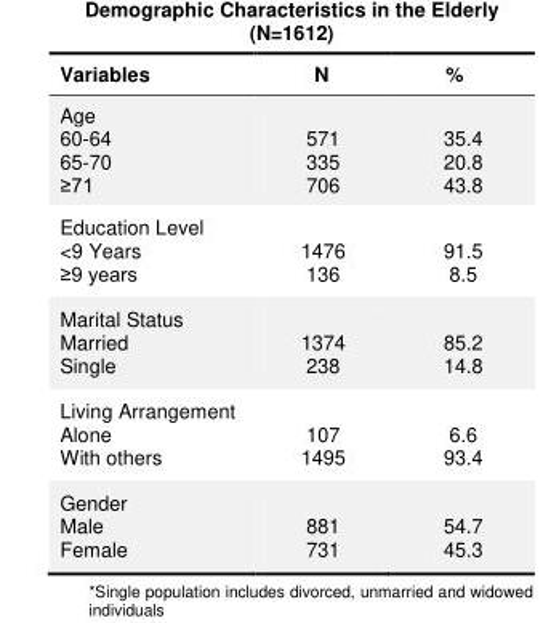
<table><thead><tr><td>Variables</td><td>N</td><td>%</td></tr></thead><tbody><tr><td>Age 60-64 65-70 ≥71</td><td>571 335 706</td><td>35.4 20.8 43.8</td></tr><tr><td>Education Level &lt;9 Years ≥9 years</td><td>1476 136</td><td>91.5 8.5</td></tr><tr><td>Marital Status Married Single</td><td>1374 238</td><td>85.2 14.8</td></tr><tr><td>Living Arrangement Alone With others</td><td>107 1495</td><td>6.6 93.4</td></tr><tr><td>Gender Male Female</td><td>881 731</td><td>54.7 45.3</td></tr></tbody></table>